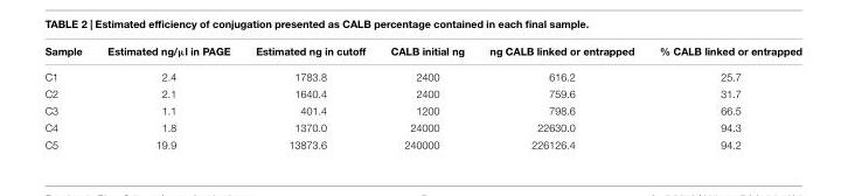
<table><thead><tr><td>Sample</td><td>Estimated ng/µl in PAGE</td><td>Estimated ng in cutoff</td><td>CALB initial ng</td><td>ng CALB linked or entrapped</td><td>% CALB linked or entrapped</td></tr></thead><tbody><tr><td>C1</td><td>2.4</td><td>1783.8</td><td>2400</td><td>616.2</td><td>25.7</td></tr><tr><td>C2</td><td>2.1</td><td>1640.4</td><td>2400</td><td>759.6</td><td>31.7</td></tr><tr><td>C3</td><td>1.1</td><td>401.4</td><td>1200</td><td>798.6</td><td>66.5</td></tr><tr><td>C4</td><td>1.8</td><td>1370.0</td><td>24000</td><td>22630.0</td><td>94.3</td></tr><tr><td>C5</td><td>19.9</td><td>13873.6</td><td>240000</td><td>226126.4</td><td>94.2</td></tr></tbody></table>